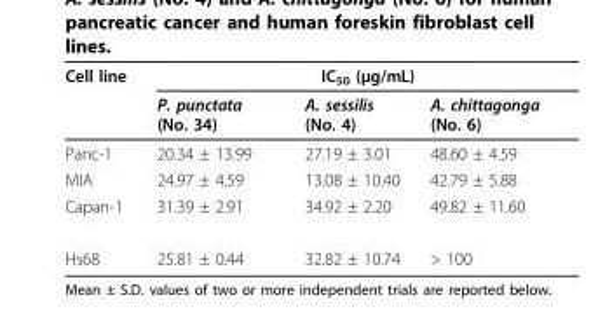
<table><thead><tr><td rowspan="2">Cell line</td><td colspan="3">IC<sub>50</sub> (μg/mL)</td></tr><tr><td>P. punctata (No. 34)</td><td>A. sessilis (No. 4)</td><td>A. chittagonga (No. 6)</td></tr></thead><tbody><tr><td>Panc-1</td><td>20.34 ± 13.99</td><td>27.19 ± 3.01</td><td>48.60 ± 4.59</td></tr><tr><td>MIA</td><td>24.97 ± 4.59</td><td>13.08 ± 10.40</td><td>42.79 ± 5.88</td></tr><tr><td>Capan-1</td><td>31.39 ± 2.91</td><td>34.92 ± 2.20</td><td>49.82 ± 11.60</td></tr><tr><td>Hs68</td><td>25.81 ± 0.44</td><td>32.82 ± 10.74</td><td>&gt; 100</td></tr></tbody></table>